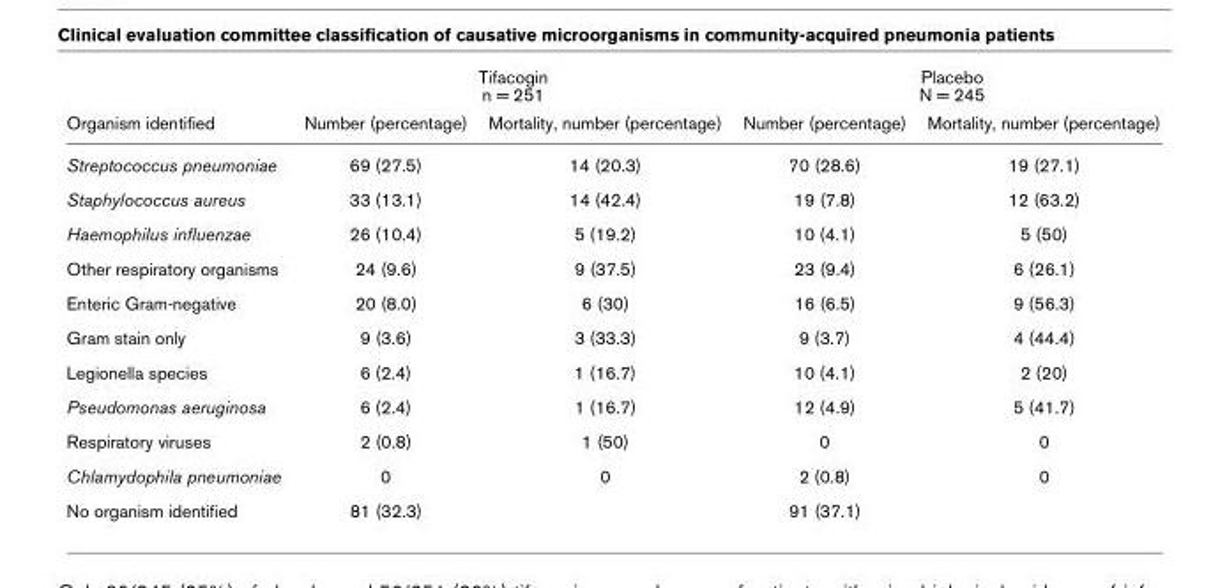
<table><thead><tr><td rowspan="2">Organism identified</td><td colspan="2">Tifacogin n = 251</td><td colspan="2">Placebo N = 245</td></tr><tr><td>Number (percentage)</td><td>Mortality, number (percentage)</td><td>Number (percentage)</td><td>Mortality, number (percentage)</td></tr></thead><tbody><tr><td>Streptococcus pneumoniae</td><td>69 (27.5)</td><td>14 (20.3)</td><td>70 (28.6)</td><td>19 (27.1)</td></tr><tr><td>Staphylococcus aureus</td><td>33 (13.1)</td><td>14 (42.4)</td><td>19 (7.8)</td><td>12 (63.2)</td></tr><tr><td>Haemophilus influenzae</td><td>26 (10.4)</td><td>5 (19.2)</td><td>10 (4.1)</td><td>5 (50)</td></tr><tr><td>Other respiratory organisms</td><td>24 (9.6)</td><td>9 (37.5)</td><td>23 (9.4)</td><td>6 (26.1)</td></tr><tr><td>Enteric Gram-negative</td><td>20 (8.0)</td><td>6 (30)</td><td>16 (6.5)</td><td>9 (56.3)</td></tr><tr><td>Gram stain only</td><td>9 (3.6)</td><td>3 (33.3)</td><td>9 (3.7)</td><td>4 (44.4)</td></tr><tr><td>Legionella species</td><td>6 (2.4)</td><td>1 (16.7)</td><td>10 (4.1)</td><td>2 (20)</td></tr><tr><td>Pseudomonas aeruginosa</td><td>6 (2.4)</td><td>1 (16.7)</td><td>12 (4.9)</td><td>5 (41.7)</td></tr><tr><td>Respiratory viruses</td><td>2 (0.8)</td><td>1 (50)</td><td>0</td><td>0</td></tr><tr><td>Chlamydophila pneumoniae</td><td>0</td><td>0</td><td>2 (0.8)</td><td>0</td></tr><tr><td>No organism identified</td><td>81 (32.3)</td><td></td><td>91 (37.1)</td><td></td></tr></tbody></table>